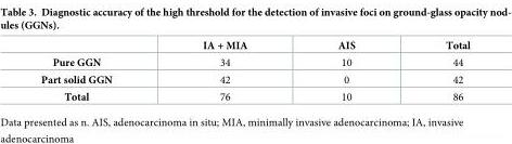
<table><thead><tr><td></td><td>IA + MIA</td><td>AIS</td><td>Total</td></tr></thead><tbody><tr><td>Pure GGN</td><td>34</td><td>10</td><td>44</td></tr><tr><td>Part solid GGN</td><td>42</td><td>0</td><td>42</td></tr><tr><td>Total</td><td>76</td><td>10</td><td>86</td></tr></tbody></table>